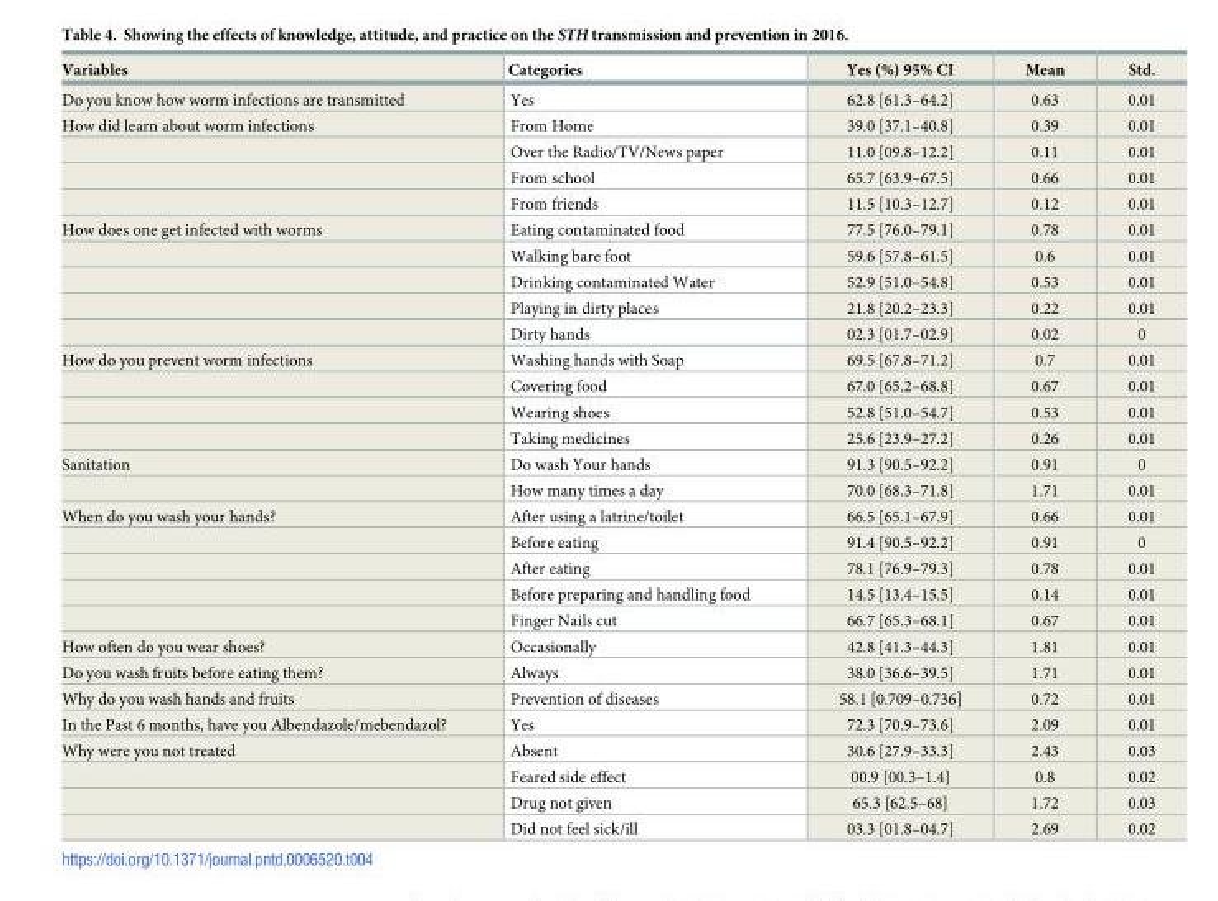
<table><thead><tr><td>Variables</td><td>Categories</td><td>Yes (%) 95% CI</td><td>Mean</td><td>Std.</td></tr></thead><tbody><tr><td>Do you know how worm infections are transmitted</td><td>Yes</td><td>62.8 [61.3–64.2]</td><td>0.63</td><td>0.01</td></tr><tr><td rowspan="4">How did learn about worm infections</td><td>From Home</td><td>39.0 [37.1–40.8]</td><td>0.39</td><td>0.01</td></tr><tr><td>Over the Radio/TV/News paper</td><td>11.0 [09.8–12.2]</td><td>0.11</td><td>0.01</td></tr><tr><td>From school</td><td>65.7 [63.9–67.5]</td><td>0.66</td><td>0.01</td></tr><tr><td>From friends</td><td>11.5 [10.3–12.7]</td><td>0.12</td><td>0.01</td></tr><tr><td rowspan="5">How does one get infected with worms</td><td>Eating contaminated food</td><td>77.5 [76.0–79.1]</td><td>0.78</td><td>0.01</td></tr><tr><td>Walking bare foot</td><td>59.6 [57.8–61.5]</td><td>0.6</td><td>0.01</td></tr><tr><td>Drinking contaminated Water</td><td>52.9 [51.0–54.8]</td><td>0.53</td><td>0.01</td></tr><tr><td>Playing in dirty places</td><td>21.8 [20.2–23.3]</td><td>0.22</td><td>0.01</td></tr><tr><td>Dirty hands</td><td>02.3 [01.7–02.9]</td><td>0.02</td><td>0</td></tr><tr><td rowspan="4">How do you prevent worm infections</td><td>Washing hands with Soap</td><td>69.5 [67.8–71.2]</td><td>0.7</td><td>0.01</td></tr><tr><td>Covering food</td><td>67.0 [65.2–68.8]</td><td>0.67</td><td>0.01</td></tr><tr><td>Wearing shoes</td><td>52.8 [51.0–54.7]</td><td>0.53</td><td>0.01</td></tr><tr><td>Taking medicines</td><td>25.6 [23.9–27.2]</td><td>0.26</td><td>0.01</td></tr><tr><td rowspan="2">Sanitation</td><td>Do wash Your hands</td><td>91.3 [90.5–92.2]</td><td>0.91</td><td>0</td></tr><tr><td>How many times a day</td><td>70.0 [68.3–71.8]</td><td>1.71</td><td>0.01</td></tr><tr><td rowspan="5">When do you wash your hands?</td><td>After using a latrine/toilet</td><td>66.5 [65.1–67.9]</td><td>0.66</td><td>0.01</td></tr><tr><td>Before eating</td><td>91.4 [90.5–92.2]</td><td>0.91</td><td>0</td></tr><tr><td>After eating</td><td>78.1 [76.9–79.3]</td><td>0.78</td><td>0.01</td></tr><tr><td>Before preparing and handling food</td><td>14.5 [13.4–15.5]</td><td>0.14</td><td>0.01</td></tr><tr><td>Finger Nails cut</td><td>66.7 [65.3–68.1]</td><td>0.67</td><td>0.01</td></tr><tr><td>How often do you wear shoes?</td><td>Occasionally</td><td>42.8 [41.3–44.3]</td><td>1.81</td><td>0.01</td></tr><tr><td>Do you wash fruits before eating them?</td><td>Always</td><td>38.0 [36.6–39.5]</td><td>1.71</td><td>0.01</td></tr><tr><td>Why do you wash hands and fruits</td><td>Prevention of diseases</td><td>58.1 [0.709–0.736]</td><td>0.72</td><td>0.01</td></tr><tr><td>In the Past 6 months, have you Albendazole/mebendazol?</td><td>Yes</td><td>72.3 [70.9–73.6]</td><td>2.09</td><td>0.01</td></tr><tr><td rowspan="4">Why were you not treated</td><td>Absent</td><td>30.6 [27.9–33.3]</td><td>2.43</td><td>0.03</td></tr><tr><td>Feared side effect</td><td>00.9 [00.3–1.4]</td><td>0.8</td><td>0.02</td></tr><tr><td>Drug not given</td><td>65.3 [62.5–68]</td><td>1.72</td><td>0.03</td></tr><tr><td>Did not feel sick/ill</td><td>03.3 [01.8–04.7]</td><td>2.69</td><td>0.02</td></tr></tbody></table>